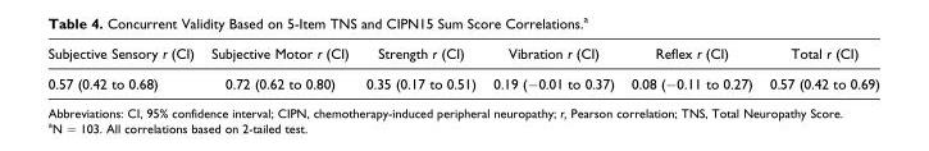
<table><thead><tr><td>Subjective Sensory r (CI)</td><td>Subjective Motor r (CI)</td><td>Strength r (CI)</td><td>Vibration r (CI)</td><td>Reflex r (CI)</td><td>Total r (CI)</td></tr></thead><tbody><tr><td>0.57 (0.42 to 0.68)</td><td>0.72 (0.62 to 0.80)</td><td>0.35 (0.17 to 0.51)</td><td>0.19 (−0.01 to 0.37)</td><td>0.08 (−0.11 to 0.27)</td><td>0.57 (0.42 to 0.69)</td></tr></tbody></table>